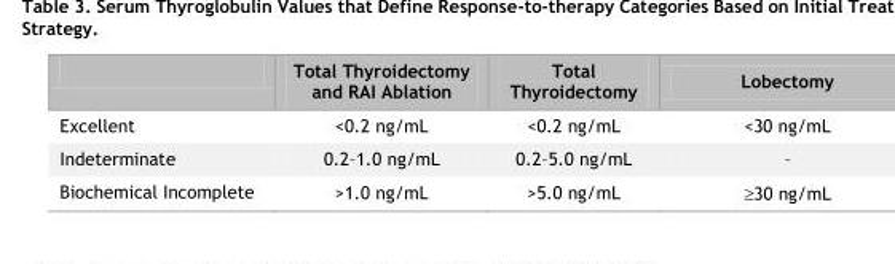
<table><thead><tr><td></td><td>Total Thyroidectomy and RAI Ablation</td><td>Total Thyroidectomy</td><td>Lobectomy</td></tr></thead><tbody><tr><td>Excellent</td><td>&lt;0.2 ng/mL</td><td>&lt;0.2 ng/mL</td><td>&lt;30 ng/mL</td></tr><tr><td>Indeterminate</td><td>0.2–1.0 ng/mL</td><td>0.2–5.0 ng/mL</td><td>–</td></tr><tr><td>Biochemical Incomplete</td><td>&gt;1.0 ng/mL</td><td>&gt;5.0 ng/mL</td><td>≥30 ng/mL</td></tr></tbody></table>